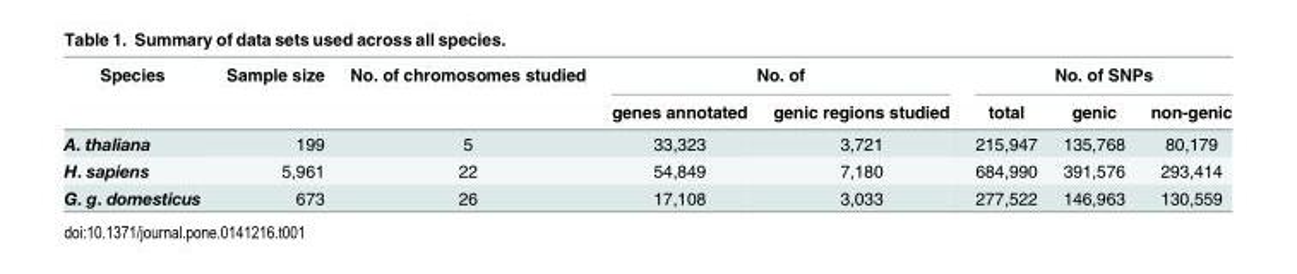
<table><thead><tr><td rowspan="2">Species</td><td rowspan="2">Sample size</td><td rowspan="2">No. of chromosomes studied</td><td colspan="2">No. of</td><td colspan="3">No. of SNPs</td></tr><tr><td>genes annotated</td><td>genic regions studied</td><td>total</td><td>genic</td><td>non-genic</td></tr></thead><tbody><tr><td>A. thaliana</td><td>199</td><td>5</td><td>33,323</td><td>3,721</td><td>215,947</td><td>135,768</td><td>80,179</td></tr><tr><td>H. sapiens</td><td>5,961</td><td>22</td><td>54,849</td><td>7,180</td><td>684,990</td><td>391,576</td><td>293,414</td></tr><tr><td>G. g. domesticus</td><td>673</td><td>26</td><td>17,108</td><td>3,033</td><td>277,522</td><td>146,963</td><td>130,559</td></tr></tbody></table>